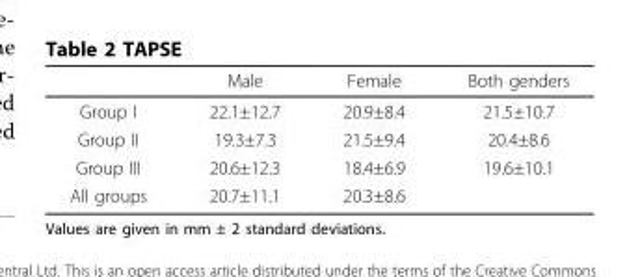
<table><thead><tr><td></td><td>Male</td><td>Female</td><td>Both genders</td></tr></thead><tbody><tr><td>Group I</td><td>22.1±12.7</td><td>20.9±8.4</td><td>21.5±10.7</td></tr><tr><td>Group II</td><td>19.3±7.3</td><td>21.5±9.4</td><td>20.4±8.6</td></tr><tr><td>Group III</td><td>20.6±12.3</td><td>18.4±6.9</td><td>19.6±10.1</td></tr><tr><td>All groups</td><td>20.7±11.1</td><td>20.3±8.6</td><td></td></tr></tbody></table>